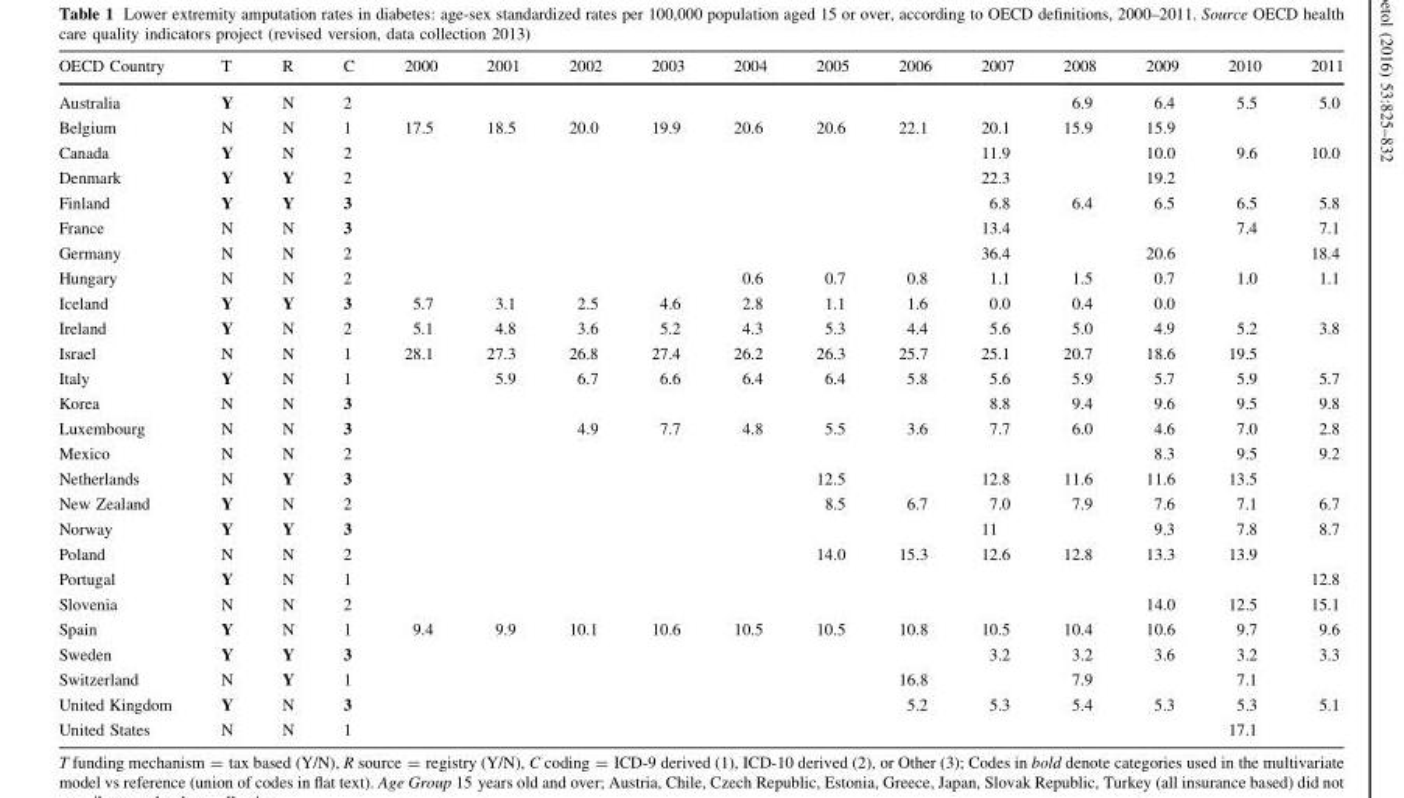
<table><thead><tr><td>OECD Country</td><td>T</td><td>R</td><td>C</td><td>2000</td><td>2001</td><td>2002</td><td>2003</td><td>2004</td><td>2005</td><td>2006</td><td>2007</td><td>2008</td><td>2009</td><td>2010</td><td>2011</td></tr></thead><tbody><tr><td>Australia</td><td>Y</td><td>N</td><td>2</td><td></td><td></td><td></td><td></td><td></td><td></td><td></td><td></td><td>6.9</td><td>6.4</td><td>5.5</td><td>5.0</td></tr><tr><td>Belgium</td><td>N</td><td>N</td><td>1</td><td>17.5</td><td>18.5</td><td>20.0</td><td>19.9</td><td>20.6</td><td>20.6</td><td>22.1</td><td>20.1</td><td>15.9</td><td>15.9</td><td></td><td></td></tr><tr><td>Canada</td><td>Y</td><td>N</td><td>2</td><td></td><td></td><td></td><td></td><td></td><td></td><td></td><td>11.9</td><td></td><td>10.0</td><td>9.6</td><td>10.0</td></tr><tr><td>Denmark</td><td>Y</td><td>Y</td><td>2</td><td></td><td></td><td></td><td></td><td></td><td></td><td></td><td>22.3</td><td></td><td>19.2</td><td></td><td></td></tr><tr><td>Finland</td><td>Y</td><td>Y</td><td>3</td><td></td><td></td><td></td><td></td><td></td><td></td><td></td><td>6.8</td><td>6.4</td><td>6.5</td><td>6.5</td><td>5.8</td></tr><tr><td>France</td><td>N</td><td>N</td><td>3</td><td></td><td></td><td></td><td></td><td></td><td></td><td></td><td>13.4</td><td></td><td></td><td>7.4</td><td>7.1</td></tr><tr><td>Germany</td><td>N</td><td>N</td><td>2</td><td></td><td></td><td></td><td></td><td></td><td></td><td></td><td>36.4</td><td></td><td>20.6</td><td></td><td>18.4</td></tr><tr><td>Hungary</td><td>N</td><td>N</td><td>2</td><td></td><td></td><td></td><td></td><td>0.6</td><td>0.7</td><td>0.8</td><td>1.1</td><td>1.5</td><td>0.7</td><td>1.0</td><td>1.1</td></tr><tr><td>Iceland</td><td>Y</td><td>Y</td><td>3</td><td>5.7</td><td>3.1</td><td>2.5</td><td>4.6</td><td>2.8</td><td>1.1</td><td>1.6</td><td>0.0</td><td>0.4</td><td>0.0</td><td></td><td></td></tr><tr><td>Ireland</td><td>Y</td><td>N</td><td>2</td><td>5.1</td><td>4.8</td><td>3.6</td><td>5.2</td><td>4.3</td><td>5.3</td><td>4.4</td><td>5.6</td><td>5.0</td><td>4.9</td><td>5.2</td><td>3.8</td></tr><tr><td>Israel</td><td>N</td><td>N</td><td>1</td><td>28.1</td><td>27.3</td><td>26.8</td><td>27.4</td><td>26.2</td><td>26.3</td><td>25.7</td><td>25.1</td><td>20.7</td><td>18.6</td><td>19.5</td><td></td></tr><tr><td>Italy</td><td>Y</td><td>N</td><td>1</td><td></td><td>5.9</td><td>6.7</td><td>6.6</td><td>6.4</td><td>6.4</td><td>5.8</td><td>5.6</td><td>5.9</td><td>5.7</td><td>5.9</td><td>5.7</td></tr><tr><td>Korea</td><td>N</td><td>N</td><td>3</td><td></td><td></td><td></td><td></td><td></td><td></td><td></td><td>8.8</td><td>9.4</td><td>9.6</td><td>9.5</td><td>9.8</td></tr><tr><td>Luxembourg</td><td>N</td><td>N</td><td>3</td><td></td><td></td><td>4.9</td><td>7.7</td><td>4.8</td><td>5.5</td><td>3.6</td><td>7.7</td><td>6.0</td><td>4.6</td><td>7.0</td><td>2.8</td></tr><tr><td>Mexico</td><td>N</td><td>N</td><td>2</td><td></td><td></td><td></td><td></td><td></td><td></td><td></td><td></td><td></td><td>8.3</td><td>9.5</td><td>9.2</td></tr><tr><td>Netherlands</td><td>N</td><td>Y</td><td>3</td><td></td><td></td><td></td><td></td><td></td><td>12.5</td><td></td><td>12.8</td><td>11.6</td><td>11.6</td><td>13.5</td><td></td></tr><tr><td>New Zealand</td><td>Y</td><td>N</td><td>2</td><td></td><td></td><td></td><td></td><td></td><td>8.5</td><td>6.7</td><td>7.0</td><td>7.9</td><td>7.6</td><td>7.1</td><td>6.7</td></tr><tr><td>Norway</td><td>Y</td><td>Y</td><td>3</td><td></td><td></td><td></td><td></td><td></td><td></td><td></td><td>11</td><td></td><td>9.3</td><td>7.8</td><td>8.7</td></tr><tr><td>Poland</td><td>N</td><td>N</td><td>2</td><td></td><td></td><td></td><td></td><td></td><td>14.0</td><td>15.3</td><td>12.6</td><td>12.8</td><td>13.3</td><td>13.9</td><td></td></tr><tr><td>Portugal</td><td>Y</td><td>N</td><td>1</td><td></td><td></td><td></td><td></td><td></td><td></td><td></td><td></td><td></td><td></td><td></td><td>12.8</td></tr><tr><td>Slovenia</td><td>N</td><td>N</td><td>2</td><td></td><td></td><td></td><td></td><td></td><td></td><td></td><td></td><td></td><td>14.0</td><td>12.5</td><td>15.1</td></tr><tr><td>Spain</td><td>Y</td><td>N</td><td>1</td><td>9.4</td><td>9.9</td><td>10.1</td><td>10.6</td><td>10.5</td><td>10.5</td><td>10.8</td><td>10.5</td><td>10.4</td><td>10.6</td><td>9.7</td><td>9.6</td></tr><tr><td>Sweden</td><td>Y</td><td>Y</td><td>3</td><td></td><td></td><td></td><td></td><td></td><td></td><td></td><td>3.2</td><td>3.2</td><td>3.6</td><td>3.2</td><td>3.3</td></tr><tr><td>Switzerland</td><td>N</td><td>Y</td><td>1</td><td></td><td></td><td></td><td></td><td></td><td></td><td>16.8</td><td></td><td>7.9</td><td></td><td>7.1</td><td></td></tr><tr><td>United Kingdom</td><td>Y</td><td>N</td><td>3</td><td></td><td></td><td></td><td></td><td></td><td></td><td>5.2</td><td>5.3</td><td>5.4</td><td>5.3</td><td>5.3</td><td>5.1</td></tr><tr><td>United States</td><td>N</td><td>N</td><td>1</td><td></td><td></td><td></td><td></td><td></td><td></td><td></td><td></td><td></td><td></td><td>17.1</td><td></td></tr></tbody></table>